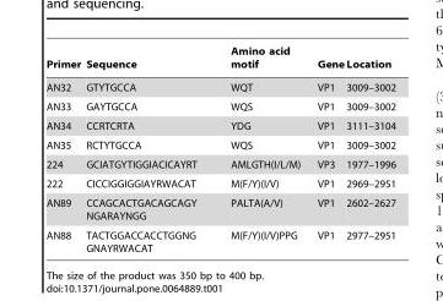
<table><thead><tr><td>Primer</td><td>Sequence</td><td>Amino acid motif</td><td>Gene</td><td>Location</td></tr></thead><tbody><tr><td>AN32</td><td>GTYTGCCA</td><td>WQT</td><td>VP1</td><td>3009–3002</td></tr><tr><td>AN33</td><td>GAYTGCCA</td><td>WQS</td><td>VP1</td><td>3009–3002</td></tr><tr><td>AN34</td><td>CCRTCRTA</td><td>YDG</td><td>VP1</td><td>3111–3104</td></tr><tr><td>AN35</td><td>RCTYTGCCA</td><td>WQS</td><td>VP1</td><td>3009–3002</td></tr><tr><td>224</td><td>GCIATGYTIGGIACICAYRT</td><td>AMLGTH(I/L/M)</td><td>VP3</td><td>1977–1996</td></tr><tr><td>222</td><td>CICCIGGIGGIAYRWACAT</td><td>M(F/Y)(I/V)</td><td>VP1</td><td>2969–2951</td></tr><tr><td>AN89</td><td>CCAGCACTGACAGCAGY NGARAYNGG</td><td>PALTA(A/V)</td><td>VP1</td><td>2602–2627</td></tr><tr><td>AN88</td><td>TACTGGACCACCTGGNG GNAYRWACAT</td><td>M(F/Y)(I/V)PPG</td><td>VP1</td><td>2977–2951</td></tr></tbody></table>